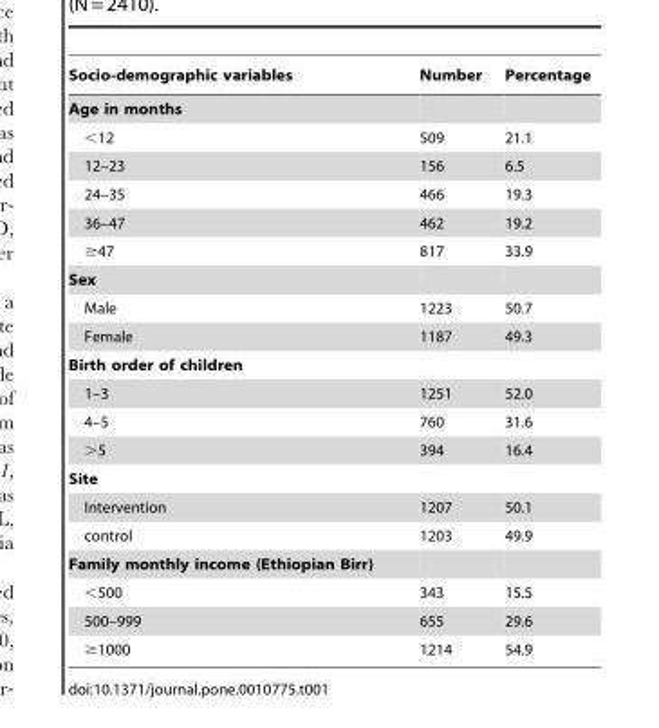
<table><thead><tr><td>Socio-demographic variables</td><td>Number</td><td>Percentage</td></tr></thead><tbody><tr><td colspan="3">Age in months</td></tr><tr><td>&lt;12</td><td>509</td><td>21.1</td></tr><tr><td>12–23</td><td>156</td><td>6.5</td></tr><tr><td>24–35</td><td>466</td><td>19.3</td></tr><tr><td>36–47</td><td>462</td><td>19.2</td></tr><tr><td>≥47</td><td>817</td><td>33.9</td></tr><tr><td colspan="3">Sex</td></tr><tr><td>Male</td><td>1223</td><td>50.7</td></tr><tr><td>Female</td><td>1187</td><td>49.3</td></tr><tr><td colspan="3">Birth order of children</td></tr><tr><td>1–3</td><td>1251</td><td>52.0</td></tr><tr><td>4–5</td><td>760</td><td>31.6</td></tr><tr><td>&gt;5</td><td>394</td><td>16.4</td></tr><tr><td colspan="3">Site</td></tr><tr><td>Intervention</td><td>1207</td><td>50.1</td></tr><tr><td>control</td><td>1203</td><td>49.9</td></tr><tr><td colspan="3">Family monthly income (Ethiopian Birr)</td></tr><tr><td>&lt;500</td><td>343</td><td>15.5</td></tr><tr><td>500–999</td><td>655</td><td>29.6</td></tr><tr><td>≥1000</td><td>1214</td><td>54.9</td></tr></tbody></table>